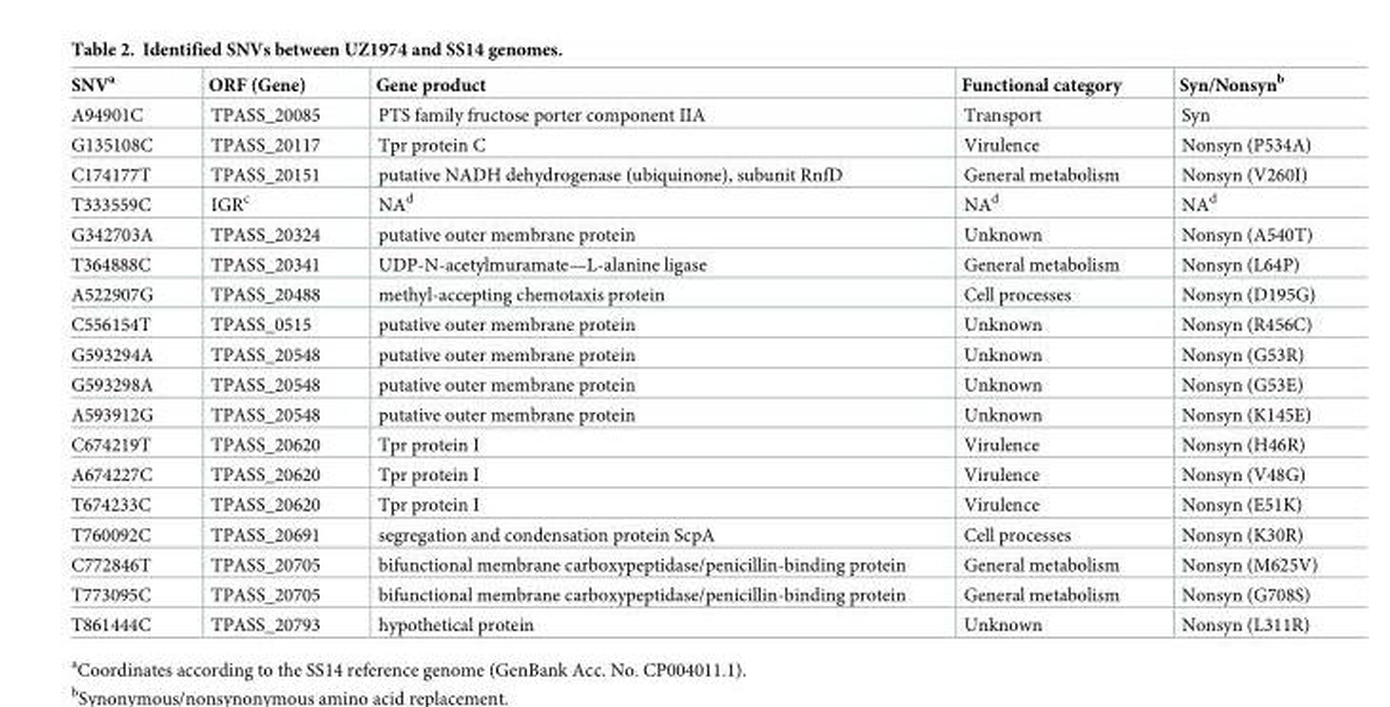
<table><thead><tr><td>SNV<sup>a</sup></td><td>ORF (Gene)</td><td>Gene product</td><td>Functional category</td><td>Syn/Nonsyn<sup>b</sup></td></tr></thead><tbody><tr><td>A94901C</td><td>TPASS_20085</td><td>PTS family fructose porter component IIA</td><td>Transport</td><td>Syn</td></tr><tr><td>G135108C</td><td>TPASS_20117</td><td>Tpr protein C</td><td>Virulence</td><td>Nonsyn (P534A)</td></tr><tr><td>C174177T</td><td>TPASS_20151</td><td>putative NADH dehydrogenase (ubiquinone), subunit RnfD</td><td>General metabolism</td><td>Nonsyn (V260I)</td></tr><tr><td>T333559C</td><td>IGR<sup>c</sup></td><td>NA<sup>d</sup></td><td>NA<sup>d</sup></td><td>NA<sup>d</sup></td></tr><tr><td>G342703A</td><td>TPASS_20324</td><td>putative outer membrane protein</td><td>Unknown</td><td>Nonsyn (A540T)</td></tr><tr><td>T364888C</td><td>TPASS_20341</td><td>UDP-N-acetylmuramate—L-alanine ligase</td><td>General metabolism</td><td>Nonsyn (L64P)</td></tr><tr><td>A522907G</td><td>TPASS_20488</td><td>methyl-accepting chemotaxis protein</td><td>Cell processes</td><td>Nonsyn (D195G)</td></tr><tr><td>C556154T</td><td>TPASS_0515</td><td>putative outer membrane protein</td><td>Unknown</td><td>Nonsyn (R456C)</td></tr><tr><td>G593294A</td><td>TPASS_20548</td><td>putative outer membrane protein</td><td>Unknown</td><td>Nonsyn (G53R)</td></tr><tr><td>G593298A</td><td>TPASS_20548</td><td>putative outer membrane protein</td><td>Unknown</td><td>Nonsyn (G53E)</td></tr><tr><td>A593912G</td><td>TPASS_20548</td><td>putative outer membrane protein</td><td>Unknown</td><td>Nonsyn (K145E)</td></tr><tr><td>C674219T</td><td>TPASS_20620</td><td>Tpr protein I</td><td>Virulence</td><td>Nonsyn (H46R)</td></tr><tr><td>A674227C</td><td>TPASS_20620</td><td>Tpr protein I</td><td>Virulence</td><td>Nonsyn (V48G)</td></tr><tr><td>T674233C</td><td>TPASS_20620</td><td>Tpr protein I</td><td>Virulence</td><td>Nonsyn (E51K)</td></tr><tr><td>T760092C</td><td>TPASS_20691</td><td>segregation and condensation protein ScpA</td><td>Cell processes</td><td>Nonsyn (K30R)</td></tr><tr><td>C772846T</td><td>TPASS_20705</td><td>bifunctional membrane carboxypeptidase/penicillin-binding protein</td><td>General metabolism</td><td>Nonsyn (M625V)</td></tr><tr><td>T773095C</td><td>TPASS_20705</td><td>bifunctional membrane carboxypeptidase/penicillin-binding protein</td><td>General metabolism</td><td>Nonsyn (G708S)</td></tr><tr><td>T861444C</td><td>TPASS_20793</td><td>hypothetical protein</td><td>Unknown</td><td>Nonsyn (L311R)</td></tr></tbody></table>